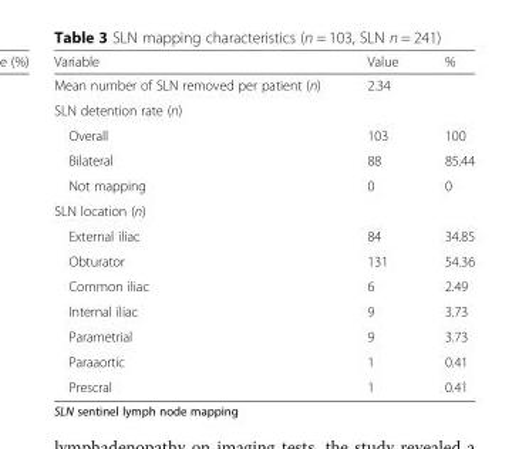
<table><thead><tr><td>Variable</td><td>Value</td><td>%</td></tr></thead><tbody><tr><td>Mean number of SLN removed per patient (n)</td><td>2.34</td><td></td></tr><tr><td colspan="3">SLN detention rate (n)</td></tr><tr><td>Overall</td><td>103</td><td>100</td></tr><tr><td>Bilateral</td><td>88</td><td>85.44</td></tr><tr><td>Not mapping</td><td>0</td><td>0</td></tr><tr><td colspan="3">SLN location (n)</td></tr><tr><td>External iliac</td><td>84</td><td>34.85</td></tr><tr><td>Obturator</td><td>131</td><td>54.36</td></tr><tr><td>Common iliac</td><td>6</td><td>2.49</td></tr><tr><td>Internal iliac</td><td>9</td><td>3.73</td></tr><tr><td>Parametrial</td><td>9</td><td>3.73</td></tr><tr><td>Paraaortic</td><td>1</td><td>0.41</td></tr><tr><td>Prescral</td><td>1</td><td>0.41</td></tr></tbody></table>